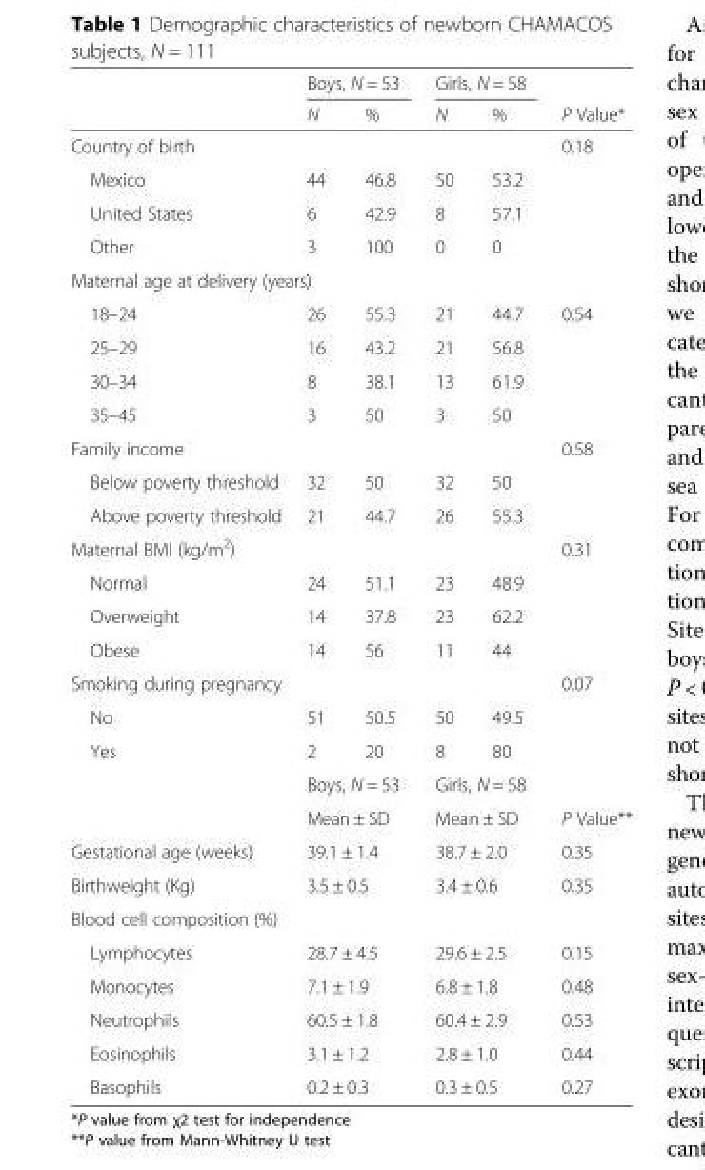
<table><thead><tr><td rowspan="2"></td><td colspan="2">Boys, N = 53</td><td colspan="2">Girls, N = 58</td><td rowspan="2">P Value*</td></tr><tr><td>N</td><td>%</td><td>N</td><td>%</td></tr></thead><tbody><tr><td>Country of birth</td><td></td><td></td><td></td><td></td><td>0.18</td></tr><tr><td>Mexico</td><td>44</td><td>46.8</td><td>50</td><td>53.2</td><td></td></tr><tr><td>United States</td><td>6</td><td>42.9</td><td>8</td><td>57.1</td><td></td></tr><tr><td>Other</td><td>3</td><td>100</td><td>0</td><td>0</td><td></td></tr><tr><td colspan="6">Maternal age at delivery (years)</td></tr><tr><td>18–24</td><td>26</td><td>55.3</td><td>21</td><td>44.7</td><td>0.54</td></tr><tr><td>25–29</td><td>16</td><td>43.2</td><td>21</td><td>56.8</td><td></td></tr><tr><td>30–34</td><td>8</td><td>38.1</td><td>13</td><td>61.9</td><td></td></tr><tr><td>35–45</td><td>3</td><td>50</td><td>3</td><td>50</td><td></td></tr><tr><td>Family income</td><td></td><td></td><td></td><td></td><td>0.58</td></tr><tr><td>Below poverty threshold</td><td>32</td><td>50</td><td>32</td><td>50</td><td></td></tr><tr><td>Above poverty threshold</td><td>21</td><td>44.7</td><td>26</td><td>55.3</td><td></td></tr><tr><td>Maternal BMI (kg/m<sup>2</sup>)</td><td></td><td></td><td></td><td></td><td>0.31</td></tr><tr><td>Normal</td><td>24</td><td>51.1</td><td>23</td><td>48.9</td><td></td></tr><tr><td>Overweight</td><td>14</td><td>37.8</td><td>23</td><td>62.2</td><td></td></tr><tr><td>Obese</td><td>14</td><td>56</td><td>11</td><td>44</td><td></td></tr><tr><td>Smoking during pregnancy</td><td></td><td></td><td></td><td></td><td>0.07</td></tr><tr><td>No</td><td>51</td><td>50.5</td><td>50</td><td>49.5</td><td></td></tr><tr><td rowspan="3">Yes</td><td>2</td><td>20</td><td>8</td><td>80</td><td></td></tr><tr><td colspan="2">Boys, N = 53</td><td colspan="2">Girls, N = 58</td><td></td></tr><tr><td colspan="2">Mean ± SD</td><td colspan="2">Mean ± SD</td><td>P Value**</td></tr><tr><td>Gestational age (weeks)</td><td colspan="2">39.1 ± 1.4</td><td colspan="2">38.7 ± 2.0</td><td>0.35</td></tr><tr><td>Birthweight (Kg)</td><td colspan="2">3.5 ± 0.5</td><td colspan="2">3.4 ± 0.6</td><td>0.35</td></tr><tr><td colspan="6">Blood cell composition (%)</td></tr><tr><td>Lymphocytes</td><td colspan="2">28.7 ± 4.5</td><td colspan="2">29.6 ± 2.5</td><td>0.15</td></tr><tr><td>Monocytes</td><td colspan="2">7.1 ± 1.9</td><td colspan="2">6.8 ± 1.8</td><td>0.48</td></tr><tr><td>Neutrophils</td><td colspan="2">60.5 ± 1.8</td><td colspan="2">60.4 ± 2.9</td><td>0.53</td></tr><tr><td>Eosinophils</td><td colspan="2">3.1 ± 1.2</td><td colspan="2">2.8 ± 1.0</td><td>0.44</td></tr><tr><td>Basophils</td><td colspan="2">0.2 ± 0.3</td><td colspan="2">0.3 ± 0.5</td><td>0.27</td></tr></tbody></table>